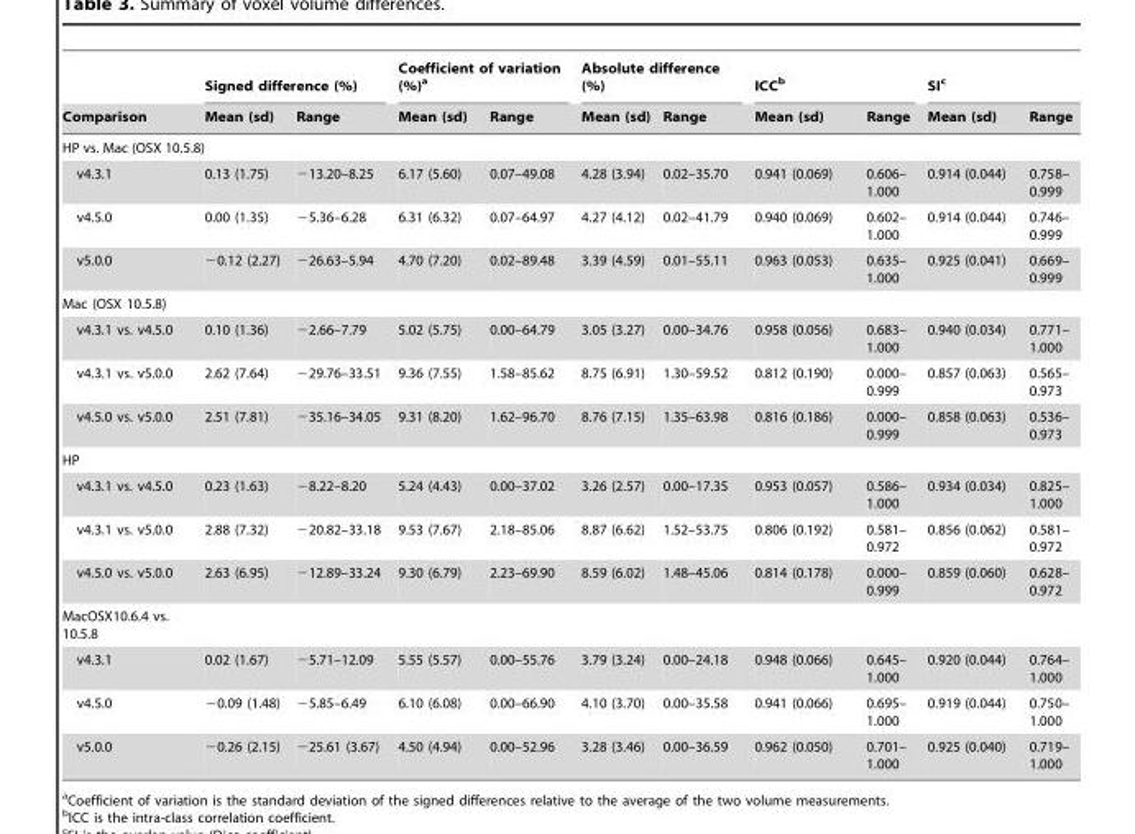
<table><thead><tr><td rowspan="2">Comparison</td><td colspan="2">Signed difference (%)</td><td colspan="2">Coefficient of variation (%)<sup>a</sup></td><td colspan="2">Absolute difference (%)</td><td colspan="2">ICC<sup>b</sup></td><td colspan="2">SI<sup>c</sup></td></tr><tr><td>Mean (sd)</td><td>Range</td><td>Mean (sd)</td><td>Range</td><td>Mean (sd)</td><td>Range</td><td>Mean (sd)</td><td>Range</td><td>Mean (sd)</td><td>Range</td></tr></thead><tbody><tr><td colspan="11">HP vs. Mac (OSX 10.5.8)</td></tr><tr><td>v4.3.1</td><td>0.13 (1.75)</td><td>−13.20–8.25</td><td>6.17 (5.60)</td><td>0.07–49.08</td><td>4.28 (3.94)</td><td>0.02–35.70</td><td>0.941 (0.069)</td><td>0.606– 1.000</td><td>0.914 (0.044)</td><td>0.758– 0.999</td></tr><tr><td>v4.5.0</td><td>0.00 (1.35)</td><td>−5.36–6.28</td><td>6.31 (6.32)</td><td>0.07–64.97</td><td>4.27 (4.12)</td><td>0.02–41.79</td><td>0.940 (0.069)</td><td>0.602– 1.000</td><td>0.914 (0.044)</td><td>0.746– 0.999</td></tr><tr><td>v5.0.0</td><td>−0.12 (2.27)</td><td>−26.63–5.94</td><td>4.70 (7.20)</td><td>0.02–89.48</td><td>3.39 (4.59)</td><td>0.01–55.11</td><td>0.963 (0.053)</td><td>0.635– 1.000</td><td>0.925 (0.041)</td><td>0.669– 0.999</td></tr><tr><td colspan="11">Mac (OSX 10.5.8)</td></tr><tr><td>v4.3.1 vs. v4.5.0</td><td>0.10 (1.36)</td><td>−2.66–7.79</td><td>5.02 (5.75)</td><td>0.00–64.79</td><td>3.05 (3.27)</td><td>0.00–34.76</td><td>0.958 (0.056)</td><td>0.683– 1.000</td><td>0.940 (0.034)</td><td>0.771– 1.000</td></tr><tr><td>v4.3.1 vs. v5.0.0</td><td>2.62 (7.64)</td><td>−29.76–33.51</td><td>9.36 (7.55)</td><td>1.58–85.62</td><td>8.75 (6.91)</td><td>1.30–59.52</td><td>0.812 (0.190)</td><td>0.000– 0.999</td><td>0.857 (0.063)</td><td>0.565– 0.973</td></tr><tr><td>v4.5.0 vs. v5.0.0</td><td>2.51 (7.81)</td><td>−35.16–34.05</td><td>9.31 (8.20)</td><td>1.62–96.70</td><td>8.76 (7.15)</td><td>1.35–63.98</td><td>0.816 (0.186)</td><td>0.000– 0.999</td><td>0.858 (0.063)</td><td>0.536– 0.973</td></tr><tr><td colspan="11">HP</td></tr><tr><td>v4.3.1 vs. v4.5.0</td><td>0.23 (1.63)</td><td>−8.22–8.20</td><td>5.24 (4.43)</td><td>0.00–37.02</td><td>3.26 (2.57)</td><td>0.00–17.35</td><td>0.953 (0.057)</td><td>0.586– 1.000</td><td>0.934 (0.034)</td><td>0.825– 1.000</td></tr><tr><td>v4.3.1 vs. v5.0.0</td><td>2.88 (7.32)</td><td>−20.82–33.18</td><td>9.53 (7.67)</td><td>2.18–85.06</td><td>8.87 (6.62)</td><td>1.52–53.75</td><td>0.806 (0.192)</td><td>0.581– 0.972</td><td>0.856 (0.062)</td><td>0.581– 0.972</td></tr><tr><td>v4.5.0 vs. v5.0.0</td><td>2.63 (6.95)</td><td>−12.89–33.24</td><td>9.30 (6.79)</td><td>2.23–69.90</td><td>8.59 (6.02)</td><td>1.48–45.06</td><td>0.814 (0.178)</td><td>0.000– 0.999</td><td>0.859 (0.060)</td><td>0.628– 0.972</td></tr><tr><td colspan="11">MacOSX10.6.4 vs. 10.5.8</td></tr><tr><td>v4.3.1</td><td>0.02 (1.67)</td><td>−5.71–12.09</td><td>5.55 (5.57)</td><td>0.00–55.76</td><td>3.79 (3.24)</td><td>0.00–24.18</td><td>0.948 (0.066)</td><td>0.645– 1.000</td><td>0.920 (0.044)</td><td>0.764– 1.000</td></tr><tr><td>v4.5.0</td><td>−0.09 (1.48)</td><td>−5.85–6.49</td><td>6.10 (6.08)</td><td>0.00–66.90</td><td>4.10 (3.70)</td><td>0.00–35.58</td><td>0.941 (0.066)</td><td>0.695– 1.000</td><td>0.919 (0.044)</td><td>0.750– 1.000</td></tr><tr><td>v5.0.0</td><td>−0.26 (2.15)</td><td>−25.61 (3.67)</td><td>4.50 (4.94)</td><td>0.00–52.96</td><td>3.28 (3.46)</td><td>0.00–36.59</td><td>0.962 (0.050)</td><td>0.701– 1.000</td><td>0.925 (0.040)</td><td>0.719– 1.000</td></tr></tbody></table>